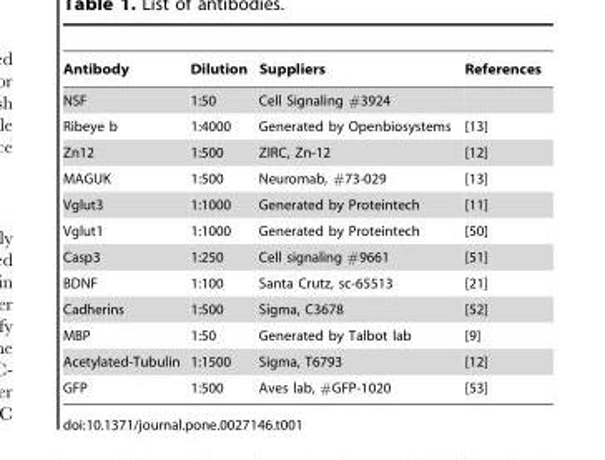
<table><thead><tr><td>Antibody</td><td>Dilution</td><td>Suppliers</td><td>References</td></tr></thead><tbody><tr><td>NSF</td><td>1:50</td><td>Cell Signaling #3924</td><td></td></tr><tr><td>Ribeye b</td><td>1:4000</td><td>Generated by Openbiosystems</td><td>[13]</td></tr><tr><td>Zn12</td><td>1:500</td><td>ZIRC, Zn-12</td><td>[12]</td></tr><tr><td>MAGUK</td><td>1:500</td><td>Neuromab, #73-029</td><td>[13]</td></tr><tr><td>Vglut3</td><td>1:1000</td><td>Generated by Proteintech</td><td>[11]</td></tr><tr><td>Vglut1</td><td>1:1000</td><td>Generated by Proteintech</td><td>[50]</td></tr><tr><td>Casp3</td><td>1:250</td><td>Cell signaling #9661</td><td>[51]</td></tr><tr><td>BDNF</td><td>1:100</td><td>Santa Crutz, sc-65513</td><td>[21]</td></tr><tr><td>Cadherins</td><td>1:500</td><td>Sigma, C3678</td><td>[52]</td></tr><tr><td>MBP</td><td>1:50</td><td>Generated by Talbot lab</td><td>[9]</td></tr><tr><td>Acetylated-Tubulin</td><td>1:1500</td><td>Sigma, T6793</td><td>[12]</td></tr><tr><td>GFP</td><td>1:500</td><td>Aves lab, #GFP-1020</td><td>[53]</td></tr></tbody></table>